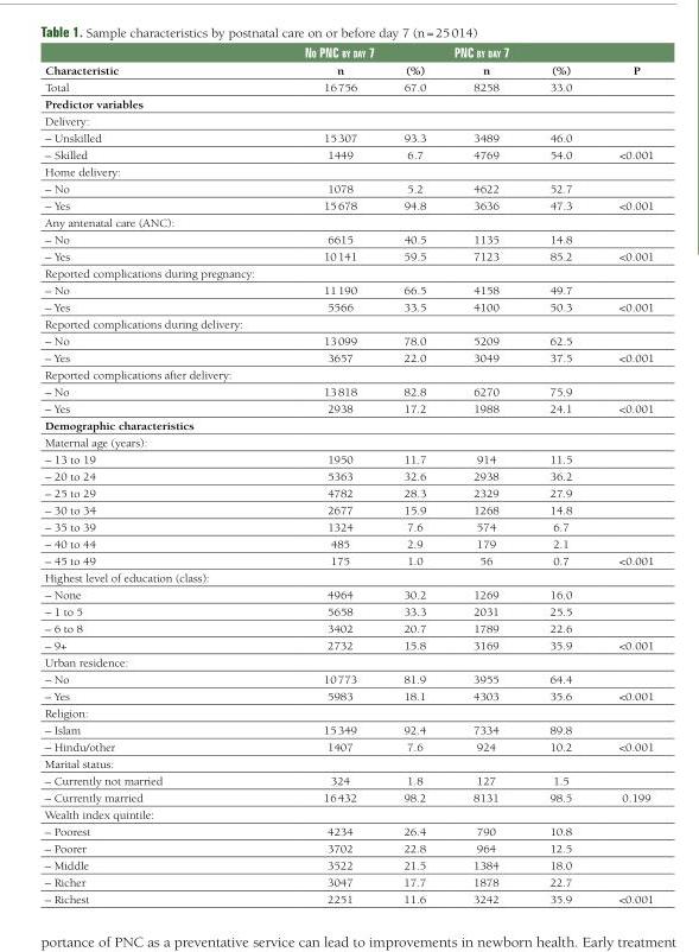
<table><thead><tr><td rowspan="2">Characteristic</td><td colspan="2">No PNC by day 7</td><td colspan="2">PNC by day 7</td><td rowspan="2">P</td></tr><tr><td>n</td><td>(%)</td><td>n</td><td>(%)</td></tr></thead><tbody><tr><td>Total</td><td>16 756</td><td>67.0</td><td>8258</td><td>33.0</td><td></td></tr><tr><td colspan="6">Predictor variables</td></tr><tr><td colspan="6">Delivery:</td></tr><tr><td>– Unskilled</td><td>15 307</td><td>93.3</td><td>3489</td><td>46.0</td><td></td></tr><tr><td>– Skilled</td><td>1449</td><td>6.7</td><td>4769</td><td>54.0</td><td>&lt;0.001</td></tr><tr><td colspan="6">Home delivery:</td></tr><tr><td>– No</td><td>1078</td><td>5.2</td><td>4622</td><td>52.7</td><td></td></tr><tr><td>– Yes</td><td>15 678</td><td>94.8</td><td>3636</td><td>47.3</td><td>&lt;0.001</td></tr><tr><td colspan="6">Any antenatal care (ANC):</td></tr><tr><td>– No</td><td>6615</td><td>40.5</td><td>1135</td><td>14.8</td><td></td></tr><tr><td>– Yes</td><td>10 141</td><td>59.5</td><td>7123</td><td>85.2</td><td>&lt;0.001</td></tr><tr><td colspan="6">Reported complications during pregnancy:</td></tr><tr><td>– No</td><td>11 190</td><td>66.5</td><td>4158</td><td>49.7</td><td></td></tr><tr><td>– Yes</td><td>5566</td><td>33.5</td><td>4100</td><td>50.3</td><td>&lt;0.001</td></tr><tr><td colspan="6">Reported complications during delivery:</td></tr><tr><td>– No</td><td>13 099</td><td>78.0</td><td>5209</td><td>62.5</td><td></td></tr><tr><td>– Yes</td><td>3657</td><td>22.0</td><td>3049</td><td>37.5</td><td>&lt;0.001</td></tr><tr><td colspan="6">Reported complications after delivery:</td></tr><tr><td>– No</td><td>13 818</td><td>82.8</td><td>6270</td><td>75.9</td><td></td></tr><tr><td>– Yes</td><td>2938</td><td>17.2</td><td>1988</td><td>24.1</td><td>&lt;0.001</td></tr><tr><td colspan="6">Demographic characteristics</td></tr><tr><td colspan="6">Maternal age (years):</td></tr><tr><td>– 13 to 19</td><td>1950</td><td>11.7</td><td>914</td><td>11.5</td><td></td></tr><tr><td>– 20 to 24</td><td>5363</td><td>32.6</td><td>2938</td><td>36.2</td><td></td></tr><tr><td>– 25 to 29</td><td>4782</td><td>28.3</td><td>2329</td><td>27.9</td><td></td></tr><tr><td>– 30 to 34</td><td>2677</td><td>15.9</td><td>1268</td><td>14.8</td><td></td></tr><tr><td>– 35 to 39</td><td>1324</td><td>7.6</td><td>574</td><td>6.7</td><td></td></tr><tr><td>– 40 to 44</td><td>485</td><td>2.9</td><td>179</td><td>2.1</td><td></td></tr><tr><td>– 45 to 49</td><td>175</td><td>1.0</td><td>56</td><td>0.7</td><td>&lt;0.001</td></tr><tr><td colspan="6">Highest level of education (class):</td></tr><tr><td>– None</td><td>4964</td><td>30.2</td><td>1269</td><td>16.0</td><td></td></tr><tr><td>– 1 to 5</td><td>5658</td><td>33.3</td><td>2031</td><td>25.5</td><td></td></tr><tr><td>– 6 to 8</td><td>3402</td><td>20.7</td><td>1789</td><td>22.6</td><td></td></tr><tr><td>– 9+</td><td>2732</td><td>15.8</td><td>3169</td><td>35.9</td><td>&lt;0.001</td></tr><tr><td colspan="6">Urban residence:</td></tr><tr><td>– No</td><td>10 773</td><td>81.9</td><td>3955</td><td>64.4</td><td></td></tr><tr><td>– Yes</td><td>5983</td><td>18.1</td><td>4303</td><td>35.6</td><td>&lt;0.001</td></tr><tr><td colspan="6">Religion:</td></tr><tr><td>– Islam</td><td>15 349</td><td>92.4</td><td>7334</td><td>89.8</td><td></td></tr><tr><td>– Hindu/other</td><td>1407</td><td>7.6</td><td>924</td><td>10.2</td><td>&lt;0.001</td></tr><tr><td colspan="6">Marital status:</td></tr><tr><td>– Currently not married</td><td>324</td><td>1.8</td><td>127</td><td>1.5</td><td></td></tr><tr><td>– Currently married</td><td>16 432</td><td>98.2</td><td>8131</td><td>98.5</td><td>0.199</td></tr><tr><td colspan="6">Wealth index quintile:</td></tr><tr><td>– Poorest</td><td>4234</td><td>26.4</td><td>790</td><td>10.8</td><td></td></tr><tr><td>– Poorer</td><td>3702</td><td>22.8</td><td>964</td><td>12.5</td><td></td></tr><tr><td>– Middle</td><td>3522</td><td>21.5</td><td>1384</td><td>18.0</td><td></td></tr><tr><td>– Richer</td><td>3047</td><td>17.7</td><td>1878</td><td>22.7</td><td></td></tr><tr><td>– Richest</td><td>2251</td><td>11.6</td><td>3242</td><td>35.9</td><td>&lt;0.001</td></tr></tbody></table>